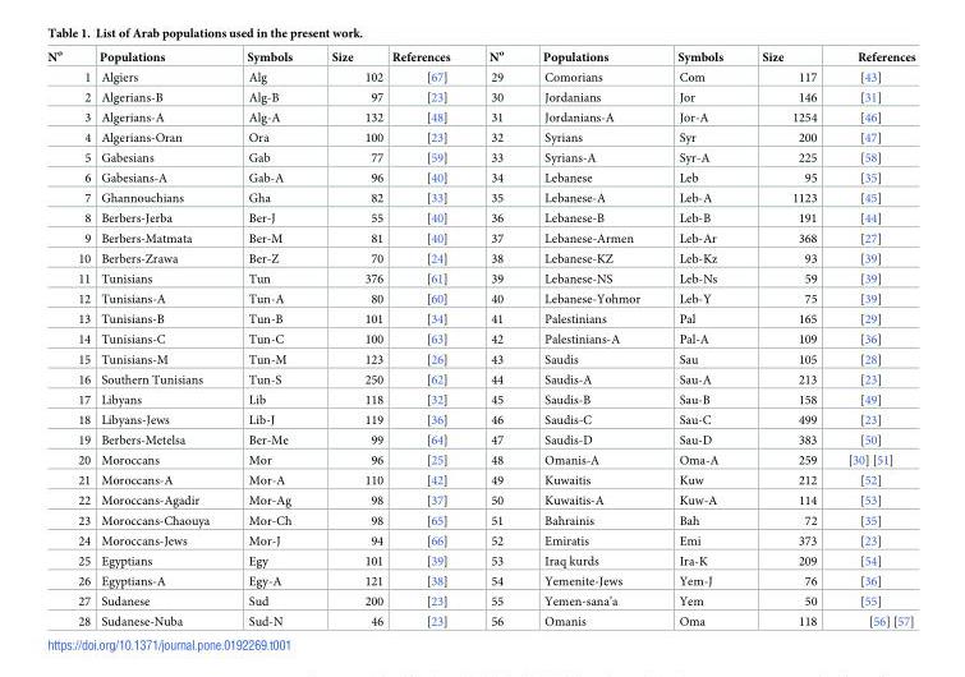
<table><thead><tr><td>N<sup>o</sup></td><td>Populations</td><td>Symbols</td><td>Size</td><td>References</td><td>N<sup>o</sup></td><td>Populations</td><td>Symbols</td><td>Size</td><td>References</td></tr></thead><tbody><tr><td>1</td><td>Algiers</td><td>Alg</td><td>102</td><td>[67]</td><td>29</td><td>Comorians</td><td>Com</td><td>117</td><td>[43]</td></tr><tr><td>2</td><td>Algerians-B</td><td>Alg-B</td><td>97</td><td>[23]</td><td>30</td><td>Jordanians</td><td>Jor</td><td>146</td><td>[31]</td></tr><tr><td>3</td><td>Algerians-A</td><td>Alg-A</td><td>132</td><td>[48]</td><td>31</td><td>Jordanians-A</td><td>Jor-A</td><td>1254</td><td>[46]</td></tr><tr><td>4</td><td>Algerians-Oran</td><td>Ora</td><td>100</td><td>[23]</td><td>32</td><td>Syrians</td><td>Syr</td><td>200</td><td>[47]</td></tr><tr><td>5</td><td>Gabesians</td><td>Gab</td><td>77</td><td>[59]</td><td>33</td><td>Syrians-A</td><td>Syr-A</td><td>225</td><td>[58]</td></tr><tr><td>6</td><td>Gabesians-A</td><td>Gab-A</td><td>96</td><td>[40]</td><td>34</td><td>Lebanese</td><td>Leb</td><td>95</td><td>[35]</td></tr><tr><td>7</td><td>Ghannouchians</td><td>Gha</td><td>82</td><td>[33]</td><td>35</td><td>Lebanese-A</td><td>Leb-A</td><td>1123</td><td>[45]</td></tr><tr><td>8</td><td>Berbers-Jerba</td><td>Ber-J</td><td>55</td><td>[40]</td><td>36</td><td>Lebanese-B</td><td>Leb-B</td><td>191</td><td>[44]</td></tr><tr><td>9</td><td>Berbers-Matmata</td><td>Ber-M</td><td>81</td><td>[40]</td><td>37</td><td>Lebanese-Armen</td><td>Leb-Ar</td><td>368</td><td>[27]</td></tr><tr><td>10</td><td>Berbers-Zrawa</td><td>Ber-Z</td><td>70</td><td>[24]</td><td>38</td><td>Lebanese-KZ</td><td>Leb-Kz</td><td>93</td><td>[39]</td></tr><tr><td>11</td><td>Tunisians</td><td>Tun</td><td>376</td><td>[61]</td><td>39</td><td>Lebanese-NS</td><td>Leb-Ns</td><td>59</td><td>[39]</td></tr><tr><td>12</td><td>Tunisians-A</td><td>Tun-A</td><td>80</td><td>[60]</td><td>40</td><td>Lebanese-Yohmor</td><td>Leb-Y</td><td>75</td><td>[39]</td></tr><tr><td>13</td><td>Tunisians-B</td><td>Tun-B</td><td>101</td><td>[34]</td><td>41</td><td>Palestinians</td><td>Pal</td><td>165</td><td>[29]</td></tr><tr><td>14</td><td>Tunisians-C</td><td>Tun-C</td><td>100</td><td>[63]</td><td>42</td><td>Palestinians-A</td><td>Pal-A</td><td>109</td><td>[36]</td></tr><tr><td>15</td><td>Tunisians-M</td><td>Tun-M</td><td>123</td><td>[26]</td><td>43</td><td>Saudis</td><td>Sau</td><td>105</td><td>[28]</td></tr><tr><td>16</td><td>Southern Tunisians</td><td>Tun-S</td><td>250</td><td>[62]</td><td>44</td><td>Saudis-A</td><td>Sau-A</td><td>213</td><td>[23]</td></tr><tr><td>17</td><td>Libyans</td><td>Lib</td><td>118</td><td>[32]</td><td>45</td><td>Saudis-B</td><td>Sau-B</td><td>158</td><td>[49]</td></tr><tr><td>18</td><td>Libyans-Jews</td><td>Lib-J</td><td>119</td><td>[36]</td><td>46</td><td>Saudis-C</td><td>Sau-C</td><td>499</td><td>[23]</td></tr><tr><td>19</td><td>Berbers-Metelsa</td><td>Ber-Me</td><td>99</td><td>[64]</td><td>47</td><td>Saudis-D</td><td>Sau-D</td><td>383</td><td>[50]</td></tr><tr><td>20</td><td>Moroccans</td><td>Mor</td><td>96</td><td>[25]</td><td>48</td><td>Omanis-A</td><td>Oma-A</td><td>259</td><td>[30] [51]</td></tr><tr><td>21</td><td>Moroccans-A</td><td>Mor-A</td><td>110</td><td>[42]</td><td>49</td><td>Kuwaitis</td><td>Kuw</td><td>212</td><td>[52]</td></tr><tr><td>22</td><td>Moroccans-Agadir</td><td>Mor-Ag</td><td>98</td><td>[37]</td><td>50</td><td>Kuwaitis-A</td><td>Kuw-A</td><td>114</td><td>[53]</td></tr><tr><td>23</td><td>Moroccans-Chaouya</td><td>Mor-Ch</td><td>98</td><td>[65]</td><td>51</td><td>Bahrainis</td><td>Bah</td><td>72</td><td>[35]</td></tr><tr><td>24</td><td>Moroccans-Jews</td><td>Mor-J</td><td>94</td><td>[66]</td><td>52</td><td>Emiratis</td><td>Emi</td><td>373</td><td>[23]</td></tr><tr><td>25</td><td>Egyptians</td><td>Egy</td><td>101</td><td>[39]</td><td>53</td><td>Iraq kurds</td><td>Ira-K</td><td>209</td><td>[54]</td></tr><tr><td>26</td><td>Egyptians-A</td><td>Egy-A</td><td>121</td><td>[38]</td><td>54</td><td>Yemenite-Jews</td><td>Yem-J</td><td>76</td><td>[36]</td></tr><tr><td>27</td><td>Sudanese</td><td>Sud</td><td>200</td><td>[23]</td><td>55</td><td>Yemen-sana’a</td><td>Yem</td><td>50</td><td>[55]</td></tr><tr><td>28</td><td>Sudanese-Nuba</td><td>Sud-N</td><td>46</td><td>[23]</td><td>56</td><td>Omanis</td><td>Oma</td><td>118</td><td>[56] [57]</td></tr></tbody></table>